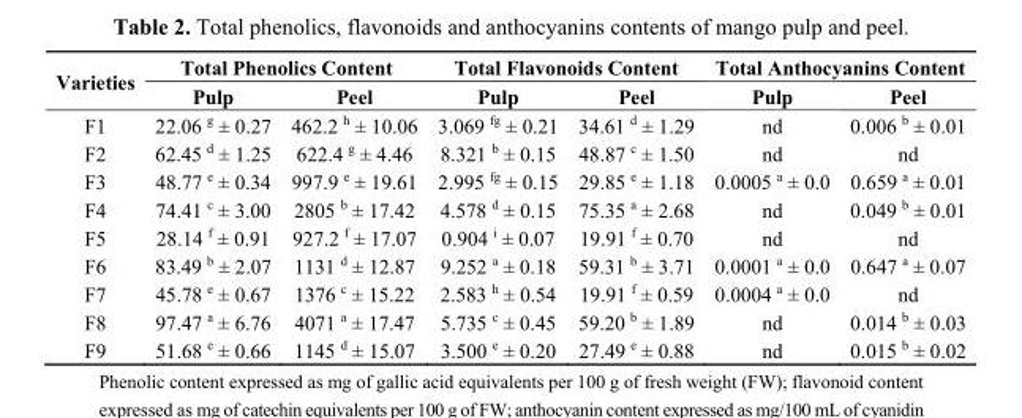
<table><thead><tr><td rowspan="2">Varieties</td><td colspan="2">Total Phenolics Content</td><td colspan="2">Total Flavonoids Content</td><td colspan="2">Total Anthocyanins Content</td></tr><tr><td>Pulp</td><td>Peel</td><td>Pulp</td><td>Peel</td><td>Pulp</td><td>Peel</td></tr></thead><tbody><tr><td>F1</td><td>22.06 <sup>g</sup> ± 0.27</td><td>462.2 <sup>h</sup> ± 10.06</td><td>3.069 <sup>fg</sup> ± 0.21</td><td>34.61 <sup>d</sup> ± 1.29</td><td>nd</td><td>0.006 <sup>b</sup> ± 0.01</td></tr><tr><td>F2</td><td>62.45 <sup>d</sup> ± 1.25</td><td>622.4 <sup>g</sup> ± 4.46</td><td>8.321 <sup>b</sup> ± 0.15</td><td>48.87 <sup>c</sup> ± 1.50</td><td>nd</td><td>nd</td></tr><tr><td>F3</td><td>48.77 <sup>e</sup> ± 0.34</td><td>997.9 <sup>e</sup> ± 19.61</td><td>2.995 <sup>fg</sup> ± 0.15</td><td>29.85 <sup>e</sup> ± 1.18</td><td>0.0005 <sup>a</sup> ± 0.0</td><td>0.659 <sup>a</sup> ± 0.01</td></tr><tr><td>F4</td><td>74.41 <sup>c</sup> ± 3.00</td><td>2805 <sup>b</sup> ± 17.42</td><td>4.578 <sup>d</sup> ± 0.15</td><td>75.35 <sup>a</sup> ± 2.68</td><td>nd</td><td>0.049 <sup>b</sup> ± 0.01</td></tr><tr><td>F5</td><td>28.14 <sup>f</sup> ± 0.91</td><td>927.2 <sup>f</sup> ± 17.07</td><td>0.904 <sup>i</sup> ± 0.07</td><td>19.91 <sup>f</sup> ± 0.70</td><td>nd</td><td>nd</td></tr><tr><td>F6</td><td>83.49 <sup>b</sup> ± 2.07</td><td>1131 <sup>d</sup> ± 12.87</td><td>9.252 <sup>a</sup> ± 0.18</td><td>59.31 <sup>b</sup> ± 3.71</td><td>0.0001 <sup>a</sup> ± 0.0</td><td>0.647 <sup>a</sup> ± 0.07</td></tr><tr><td>F7</td><td>45.78 <sup>e</sup> ± 0.67</td><td>1376 <sup>c</sup> ± 15.22</td><td>2.583 <sup>h</sup> ± 0.54</td><td>19.91 <sup>f</sup> ± 0.59</td><td>0.0004 <sup>a</sup> ± 0.0</td><td>nd</td></tr><tr><td>F8</td><td>97.47 <sup>a</sup> ± 6.76</td><td>4071 <sup>a</sup> ± 17.47</td><td>5.735 <sup>c</sup> ± 0.45</td><td>59.20 <sup>b</sup> ± 1.89</td><td>nd</td><td>0.014 <sup>b</sup> ± 0.03</td></tr><tr><td>F9</td><td>51.68 <sup>e</sup> ± 0.66</td><td>1145 <sup>d</sup> ± 15.07</td><td>3.500 <sup>e</sup> ± 0.20</td><td>27.49 <sup>e</sup> ± 0.88</td><td>nd</td><td>0.015 <sup>b</sup> ± 0.02</td></tr></tbody></table>